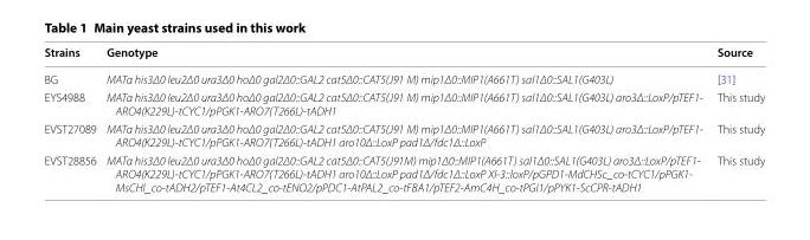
<table><thead><tr><td>Strains</td><td>Genotype</td><td>Source</td></tr></thead><tbody><tr><td>BG</td><td>MATα his3Δ0 leu2Δ0 ura3Δ0 hoΔ0 gal2Δ0::GAL2 cat5Δ0::CAT5(J91 M) mip1Δ0::MIP1(A661T) sal1Δ0::SAL1(G403L)</td><td>[31]</td></tr><tr><td>EYS4988</td><td>MATα his3Δ0 leu2Δ0 ura3Δ0 hoΔ0 gal2Δ0::GAL2 cat5Δ0::CAT5(J91 M) mip1Δ0::MIP1(A661T) sal1Δ0::SAL1(G403L) aro3Δ::LoxP/pTEF1- ARO4(K229L)-tCYC1/pPGK1-ARO7(T266L)-tADH1</td><td>This study</td></tr><tr><td>EVST27089</td><td>MATα his3Δ0 leu2Δ0 ura3Δ0 hoΔ0 gal2Δ0::GAL2 cat5Δ0::CAT5(J91 M) mip1Δ0::MIP1(A661T) sal1Δ0::SAL1(G403L) aro3Δ::LoxP/pTEF1- ARO4(K229L)-tCYC1/pPGK1-ARO7(T266L)-tADH1 aro10Δ::LoxP pad1Δ/fdc1Δ::LoxP</td><td>This study</td></tr><tr><td>EVST28856</td><td>MATα his3Δ0 leu2Δ0 ura3Δ0 hoΔ0 gal2Δ0::GAL2 cat5Δ0::CAT5(J91M) mip1Δ0::MIP1(A661T) sal1Δ0::SAL1(G403L) aro3Δ::LoxP/pTEF1- ARO4(K229L)-tCYC1/pPGK1-ARO7(T266L)-tADH1 aro10Δ::LoxP pad1Δ/fdc1Δ::LoxP XI-3::loxP/pGPD1-MdCHSc_co-tCYC1/pPGK1- MsCHI_co-tADH2/pTEF1-At4CL2_co-tENO2/pPDC1-AtPAL2_co-tFBA1/pTEF2-AmC4H_co-tPGI1/pPYK1-ScCPR-tADH1</td><td>This study</td></tr></tbody></table>